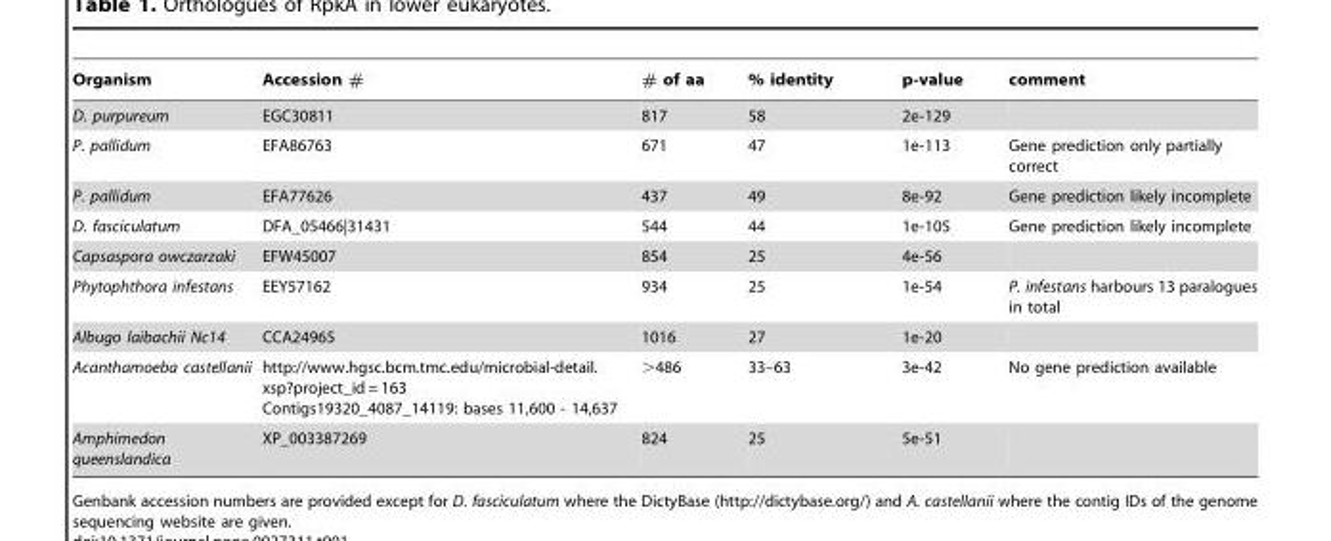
<table><thead><tr><td>Organism</td><td>Accession #</td><td># of aa</td><td>% identity</td><td>p-value</td><td>comment</td></tr></thead><tbody><tr><td>D. purpureum</td><td>EGC30811</td><td>817</td><td>58</td><td>2e-129</td><td></td></tr><tr><td>P. pallidum</td><td>EFA86763</td><td>671</td><td>47</td><td>1e-113</td><td>Gene prediction only partially correct</td></tr><tr><td>P. pallidum</td><td>EFA77626</td><td>437</td><td>49</td><td>8e-92</td><td>Gene prediction likely incomplete</td></tr><tr><td>D. fasciculatum</td><td>DFA_05466|31431</td><td>544</td><td>44</td><td>1e-105</td><td>Gene prediction likely incomplete</td></tr><tr><td>Capsaspora owczarzaki</td><td>EFW45007</td><td>854</td><td>25</td><td>4e-56</td><td></td></tr><tr><td>Phytophthora infestans</td><td>EEY57162</td><td>934</td><td>25</td><td>1e-54</td><td>P. infestans harbours 13 paralogues in total</td></tr><tr><td>Albugo laibachii Nc14</td><td>CCA24965</td><td>1016</td><td>27</td><td>1e-20</td><td></td></tr><tr><td>Acanthamoeba castellanii</td><td>http://www.hgsc.bcm.tmc.edu/microbial-detail. xsp?project_id = 163 Contigs19320_4087_14119: bases 11,600 - 14,637</td><td>&gt;486</td><td>33–63</td><td>3e-42</td><td>No gene prediction available</td></tr><tr><td>Amphimedon queenslandica</td><td>XP_003387269</td><td>824</td><td>25</td><td>5e-51</td><td></td></tr></tbody></table>